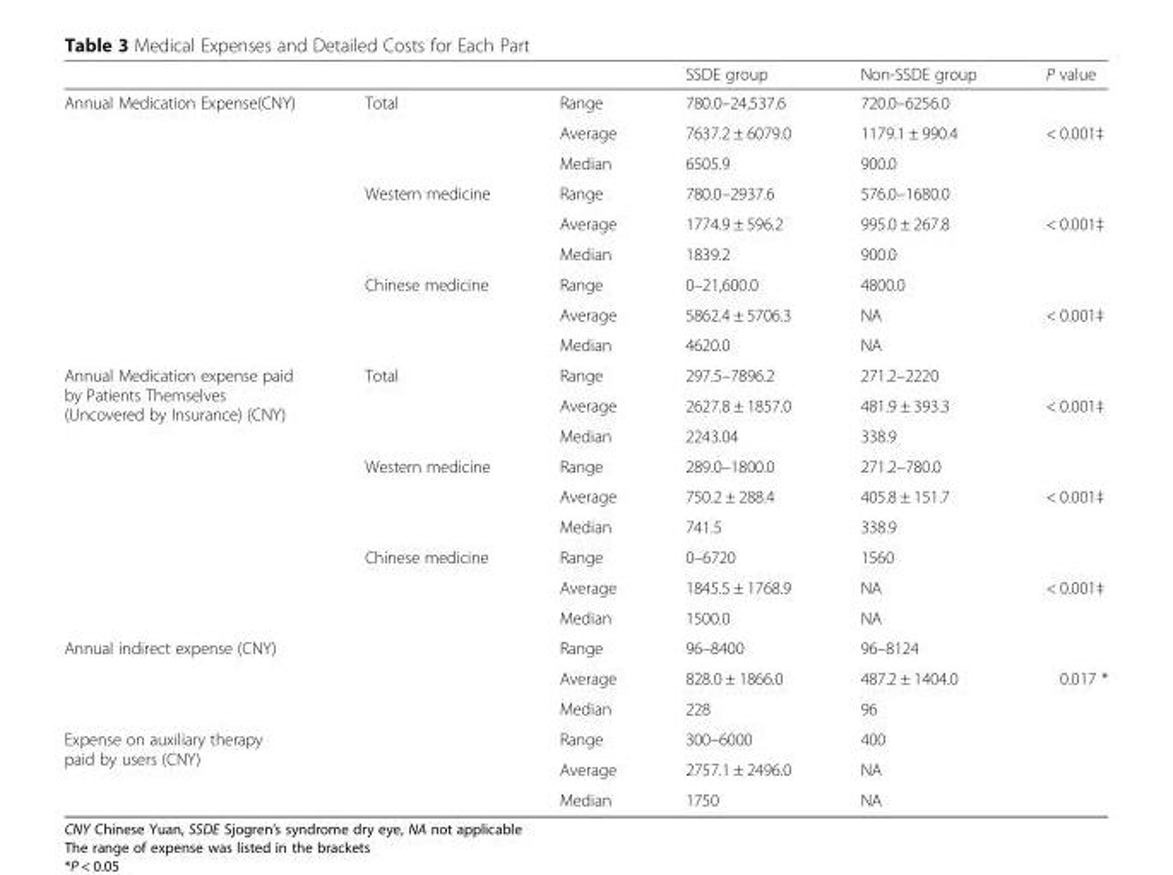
<table><thead><tr><td></td><td></td><td></td><td>SSDE group</td><td>Non-SSDE group</td><td>P value</td></tr></thead><tbody><tr><td rowspan="9">Annual Medication Expense(CNY)</td><td rowspan="3">Total</td><td>Range</td><td>780.0–24,537.6</td><td>720.0–6256.0</td><td></td></tr><tr><td>Average</td><td>7637.2 ± 6079.0</td><td>1179.1 ± 990.4</td><td rowspan="2">&lt; 0.001‡</td></tr><tr><td>Median</td><td>6505.9</td><td>900.0</td></tr><tr><td rowspan="3">Western medicine</td><td>Range</td><td>780.0–2937.6</td><td>576.0–1680.0</td><td></td></tr><tr><td>Average</td><td>1774.9 ± 596.2</td><td>995.0 ± 267.8</td><td>&lt; 0.001‡</td></tr><tr><td>Median</td><td>1839.2</td><td>900.0</td><td></td></tr><tr><td rowspan="3">Chinese medicine</td><td>Range</td><td>0–21,600.0</td><td>4800.0</td><td></td></tr><tr><td>Average</td><td>5862.4 ± 5706.3</td><td>NA</td><td>&lt; 0.001‡</td></tr><tr><td>Median</td><td>4620.0</td><td>NA</td><td></td></tr><tr><td rowspan="9">Annual Medication expense paid by Patients Themselves (Uncovered by Insurance) (CNY)</td><td rowspan="3">Total</td><td>Range</td><td>297.5–7896.2</td><td>271.2–2220</td><td></td></tr><tr><td>Average</td><td>2627.8 ± 1857.0</td><td>481.9 ± 393.3</td><td>&lt; 0.001‡</td></tr><tr><td>Median</td><td>2243.04</td><td>338.9</td><td></td></tr><tr><td rowspan="3">Western medicine</td><td>Range</td><td>289.0–1800.0</td><td>271.2–780.0</td><td></td></tr><tr><td>Average</td><td>750.2 ± 288.4</td><td>405.8 ± 151.7</td><td>&lt; 0.001‡</td></tr><tr><td>Median</td><td>741.5</td><td>338.9</td><td></td></tr><tr><td rowspan="3">Chinese medicine</td><td>Range</td><td>0–6720</td><td>1560</td><td></td></tr><tr><td>Average</td><td>1845.5 ± 1768.9</td><td>NA</td><td>&lt; 0.001‡</td></tr><tr><td>Median</td><td>1500.0</td><td>NA</td><td></td></tr><tr><td rowspan="3">Annual indirect expense (CNY)</td><td></td><td>Range</td><td>96–8400</td><td>96–8124</td><td></td></tr><tr><td></td><td>Average</td><td>828.0 ± 1866.0</td><td>487.2 ± 1404.0</td><td>0.017 *</td></tr><tr><td></td><td>Median</td><td>228</td><td>96</td><td></td></tr><tr><td rowspan="3">Expense on auxiliary therapy paid by users (CNY)</td><td></td><td>Range</td><td>300–6000</td><td>400</td><td></td></tr><tr><td></td><td>Average</td><td>2757.1 ± 2496.0</td><td>NA</td><td></td></tr><tr><td></td><td>Median</td><td>1750</td><td>NA</td><td></td></tr></tbody></table>